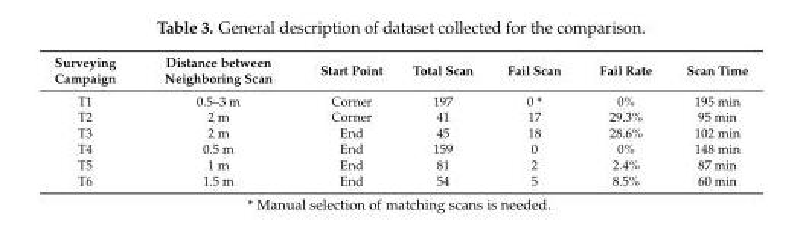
<table><thead><tr><td>Surveying Campaign</td><td>Distance between Neighboring Scan</td><td>Start Point</td><td>Total Scan</td><td>Fail Scan</td><td>Fail Rate</td><td>Scan Time</td></tr></thead><tbody><tr><td>T1</td><td>0.5–3 m</td><td>Corner</td><td>197</td><td>0 *</td><td>0%</td><td>195 min</td></tr><tr><td>T2</td><td>2 m</td><td>Corner</td><td>41</td><td>17</td><td>29.3%</td><td>95 min</td></tr><tr><td>T3</td><td>2 m</td><td>End</td><td>45</td><td>18</td><td>28.6%</td><td>102 min</td></tr><tr><td>T4</td><td>0.5 m</td><td>End</td><td>159</td><td>0</td><td>0%</td><td>148 min</td></tr><tr><td>T5</td><td>1 m</td><td>End</td><td>81</td><td>2</td><td>2.4%</td><td>87 min</td></tr><tr><td>T6</td><td>1.5 m</td><td>End</td><td>54</td><td>5</td><td>8.5%</td><td>60 min</td></tr></tbody></table>